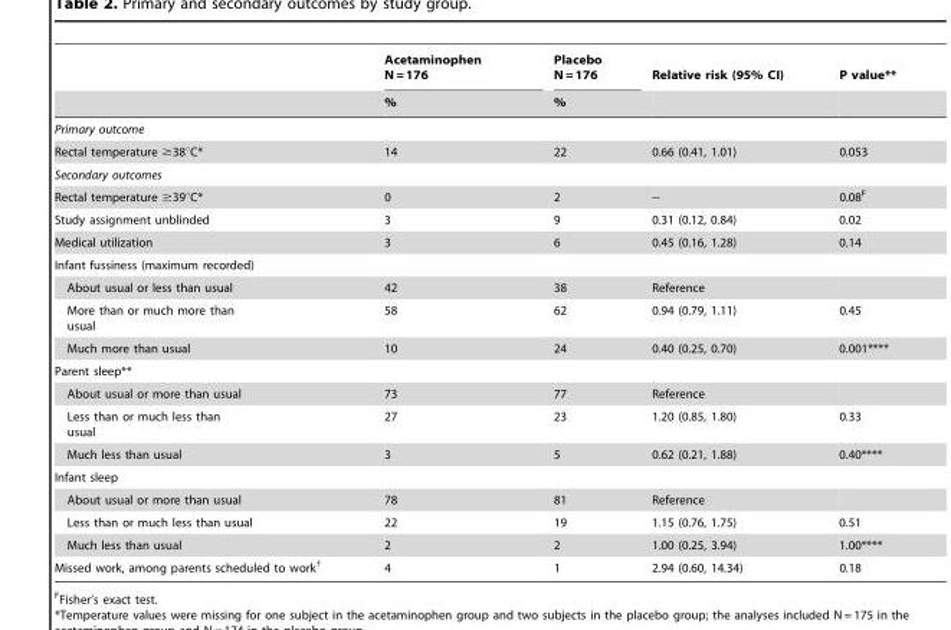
<table><thead><tr><td rowspan="2"></td><td rowspan="2">Acetaminophen N = 176 %</td><td rowspan="2">Placebo N = 176 %</td><td rowspan="2">Relative risk (95% CI)</td><td rowspan="2">P value**</td></tr><tr></tr></thead><tbody><tr><td colspan="5">Primary outcome</td></tr><tr><td>Rectal temperature ≥38°C*</td><td>14</td><td>22</td><td>0.66 (0.41, 1.01)</td><td>0.053</td></tr><tr><td colspan="5">Secondary outcomes</td></tr><tr><td>Rectal temperature ≥39°C*</td><td>0</td><td>2</td><td>--</td><td>0.08<sup>F</sup></td></tr><tr><td>Study assignment unblinded</td><td>3</td><td>9</td><td>0.31 (0.12, 0.84)</td><td>0.02</td></tr><tr><td>Medical utilization</td><td>3</td><td>6</td><td>0.45 (0.16, 1.28)</td><td>0.14</td></tr><tr><td colspan="5">Infant fussiness (maximum recorded)</td></tr><tr><td>About usual or less than usual</td><td>42</td><td>38</td><td>Reference</td><td></td></tr><tr><td>More than or much more than usual</td><td>58</td><td>62</td><td>0.94 (0.79, 1.11)</td><td>0.45</td></tr><tr><td>Much more than usual</td><td>10</td><td>24</td><td>0.40 (0.25, 0.70)</td><td>0.001****</td></tr><tr><td colspan="5">Parent sleep**</td></tr><tr><td>About usual or more than usual</td><td>73</td><td>77</td><td>Reference</td><td></td></tr><tr><td>Less than or much less than usual</td><td>27</td><td>23</td><td>1.20 (0.85, 1.80)</td><td>0.33</td></tr><tr><td>Much less than usual</td><td>3</td><td>5</td><td>0.62 (0.21, 1.88)</td><td>0.40****</td></tr><tr><td colspan="5">Infant sleep</td></tr><tr><td>About usual or more than usual</td><td>78</td><td>81</td><td>Reference</td><td></td></tr><tr><td>Less than or much less than usual</td><td>22</td><td>19</td><td>1.15 (0.76, 1.75)</td><td>0.51</td></tr><tr><td>Much less than usual</td><td>2</td><td>2</td><td>1.00 (0.25, 3.94)</td><td>1.00****</td></tr><tr><td>Missed work, among parents scheduled to work†</td><td>4</td><td>1</td><td>2.94 (0.60, 14.34)</td><td>0.18</td></tr></tbody></table>